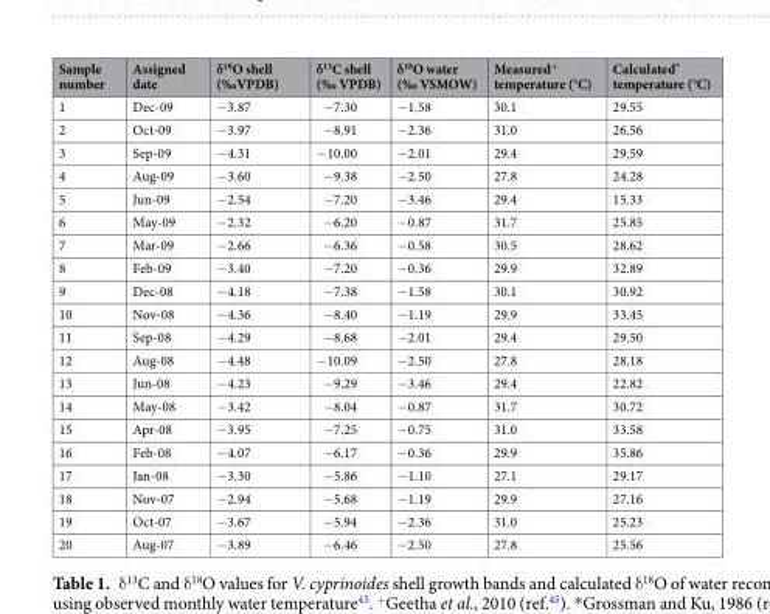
<table><thead><tr><td>Sample number</td><td>Assigned date</td><td>δ<sup>18</sup>O shell (‰VPDB)</td><td>δ<sup>13</sup>C shell (‰ VPDB)</td><td>δ<sup>18</sup>O water (‰ VSMOW)</td><td>Measured<sup>+</sup> temperature (°C)</td><td>Calculated* temperature (°C)</td></tr></thead><tbody><tr><td>1</td><td>Dec-09</td><td>−3.87</td><td>−7.30</td><td>−1.58</td><td>30.1</td><td>29.55</td></tr><tr><td>2</td><td>Oct-09</td><td>−3.97</td><td>−8.91</td><td>−2.36</td><td>31.0</td><td>26.56</td></tr><tr><td>3</td><td>Sep-09</td><td>−4.31</td><td>−10.00</td><td>−2.01</td><td>29.4</td><td>29.59</td></tr><tr><td>4</td><td>Aug-09</td><td>−3.60</td><td>−9.38</td><td>−2.50</td><td>27.8</td><td>24.28</td></tr><tr><td>5</td><td>Jun-09</td><td>−2.54</td><td>−7.20</td><td>−3.46</td><td>29.4</td><td>15.33</td></tr><tr><td>6</td><td>May-09</td><td>−2.32</td><td>−6.20</td><td>−0.87</td><td>31.7</td><td>25.85</td></tr><tr><td>7</td><td>Mar-09</td><td>−2.66</td><td>−6.36</td><td>−0.58</td><td>30.5</td><td>28.62</td></tr><tr><td>8</td><td>Feb-09</td><td>−3.40</td><td>−7.20</td><td>−0.36</td><td>29.9</td><td>32.89</td></tr><tr><td>9</td><td>Dec-08</td><td>−4.18</td><td>−7.38</td><td>−1.58</td><td>30.1</td><td>30.92</td></tr><tr><td>10</td><td>Nov-08</td><td>−4.36</td><td>−8.40</td><td>−1.19</td><td>29.9</td><td>33.45</td></tr><tr><td>11</td><td>Sep-08</td><td>−4.29</td><td>−8.68</td><td>−2.01</td><td>29.4</td><td>29.50</td></tr><tr><td>12</td><td>Aug-08</td><td>−4.48</td><td>−10.09</td><td>−2.50</td><td>27.8</td><td>28.18</td></tr><tr><td>13</td><td>Jun-08</td><td>−4.23</td><td>−9.29</td><td>−3.46</td><td>29.4</td><td>22.82</td></tr><tr><td>14</td><td>May-08</td><td>−3.42</td><td>−8.04</td><td>−0.87</td><td>31.7</td><td>30.72</td></tr><tr><td>15</td><td>Apr-08</td><td>−3.95</td><td>−7.25</td><td>−0.75</td><td>31.0</td><td>33.58</td></tr><tr><td>16</td><td>Feb-08</td><td>−4.07</td><td>−6.17</td><td>−0.36</td><td>29.9</td><td>35.86</td></tr><tr><td>17</td><td>Jan-08</td><td>−3.30</td><td>−5.86</td><td>−1.10</td><td>27.1</td><td>29.17</td></tr><tr><td>18</td><td>Nov-07</td><td>−2.94</td><td>−5.68</td><td>−1.19</td><td>29.9</td><td>27.16</td></tr><tr><td>19</td><td>Oct-07</td><td>−3.67</td><td>−5.94</td><td>−2.36</td><td>31.0</td><td>25.23</td></tr><tr><td>20</td><td>Aug-07</td><td>−3.89</td><td>−6.46</td><td>−2.50</td><td>27.8</td><td>25.56</td></tr></tbody></table>